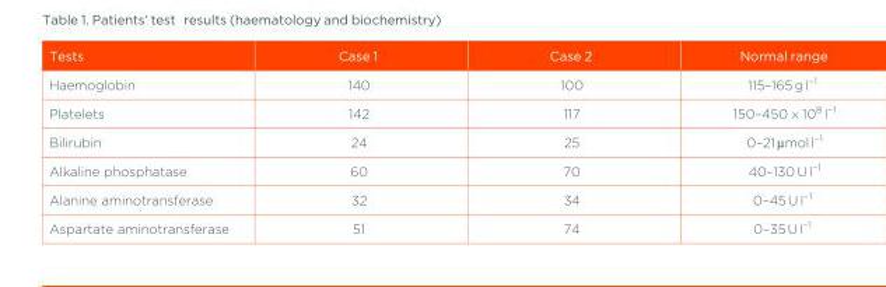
<table><thead><tr><td>Tests</td><td>Case 1</td><td>Case 2</td><td>Normal range</td></tr></thead><tbody><tr><td>Haemoglobin</td><td>140</td><td>100</td><td>115–165 g l<sup>–1</sup></td></tr><tr><td>Platelets</td><td>142</td><td>117</td><td>150–450 × 10<sup>8</sup> l<sup>–1</sup></td></tr><tr><td>Bilirubin</td><td>24</td><td>25</td><td>0–21 μmol l<sup>–1</sup></td></tr><tr><td>Alkaline phosphatase</td><td>60</td><td>70</td><td>40–130 U l<sup>–1</sup></td></tr><tr><td>Alanine aminotransferase</td><td>32</td><td>34</td><td>0–45 U l<sup>–1</sup></td></tr><tr><td>Aspartate aminotransferase</td><td>51</td><td>74</td><td>0–35 U l<sup>–1</sup></td></tr></tbody></table>